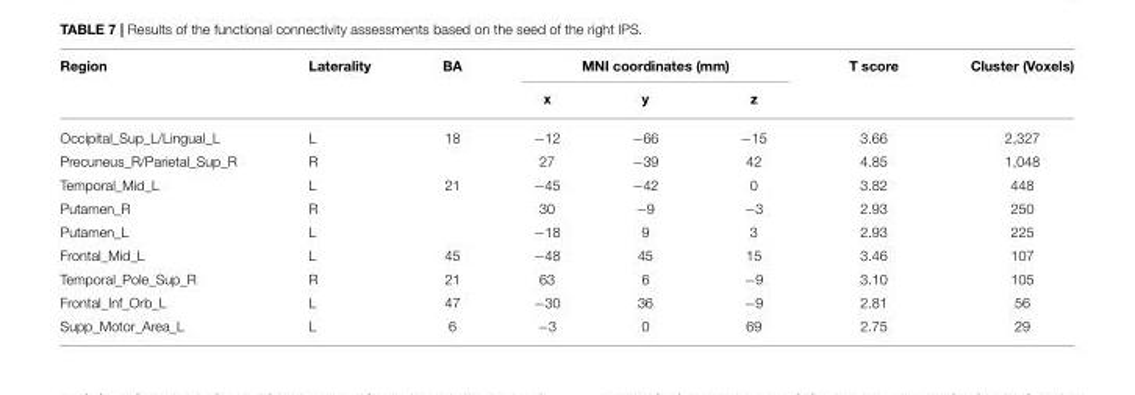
<table><thead><tr><td rowspan="2">Region</td><td rowspan="2">Laterality</td><td rowspan="2">BA</td><td colspan="3">MNI coordinates (mm)</td><td rowspan="2">T score</td><td rowspan="2">Cluster (Voxels)</td></tr><tr><td>x</td><td>y</td><td>z</td></tr></thead><tbody><tr><td>Occipital_Sup_L/Lingual_L</td><td>L</td><td>18</td><td>−12</td><td>−66</td><td>−15</td><td>3.66</td><td>2,327</td></tr><tr><td>Precuneus_R/Parietal_Sup_R</td><td>R</td><td></td><td>27</td><td>−39</td><td>42</td><td>4.85</td><td>1,048</td></tr><tr><td>Temporal_Mid_L</td><td>L</td><td>21</td><td>−45</td><td>−42</td><td>0</td><td>3.82</td><td>448</td></tr><tr><td>Putamen_R</td><td>R</td><td></td><td>30</td><td>−9</td><td>−3</td><td>2.93</td><td>250</td></tr><tr><td>Putamen_L</td><td>L</td><td></td><td>−18</td><td>9</td><td>3</td><td>2.93</td><td>225</td></tr><tr><td>Frontal_Mid_L</td><td>L</td><td>45</td><td>−48</td><td>45</td><td>15</td><td>3.46</td><td>107</td></tr><tr><td>Temporal_Pole_Sup_R</td><td>R</td><td>21</td><td>63</td><td>6</td><td>−9</td><td>3.10</td><td>105</td></tr><tr><td>Frontal_Inf_Orb_L</td><td>L</td><td>47</td><td>−30</td><td>36</td><td>−9</td><td>2.81</td><td>56</td></tr><tr><td>Supp_Motor_Area_L</td><td>L</td><td>6</td><td>−3</td><td>0</td><td>69</td><td>2.75</td><td>29</td></tr></tbody></table>